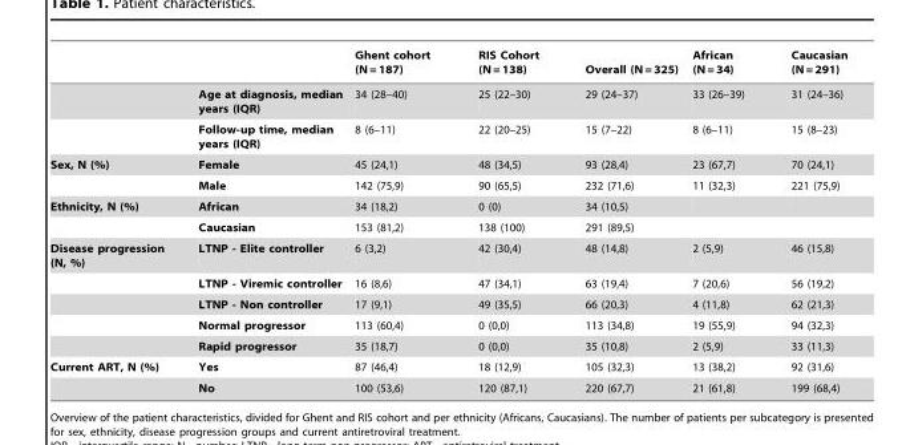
<table><thead><tr><td></td><td></td><td>Ghent cohort (N = 187)</td><td>RIS Cohort (N = 138)</td><td>Overall (N = 325)</td><td>African (N = 34)</td><td>Caucasian (N = 291)</td></tr></thead><tbody><tr><td></td><td>Age at diagnosis, median years (IQR)</td><td>34 (28–40)</td><td>25 (22–30)</td><td>29 (24–37)</td><td>33 (26–39)</td><td>31 (24–36)</td></tr><tr><td></td><td>Follow-up time, median years (IQR)</td><td>8 (6–11)</td><td>22 (20–25)</td><td>15 (7–22)</td><td>8 (6–11)</td><td>15 (8–23)</td></tr><tr><td rowspan="2">Sex, N (%)</td><td>Female</td><td>45 (24,1)</td><td>48 (34,5)</td><td>93 (28,4)</td><td>23 (67,7)</td><td>70 (24,1)</td></tr><tr><td>Male</td><td>142 (75,9)</td><td>90 (65,5)</td><td>232 (71,6)</td><td>11 (32,3)</td><td>221 (75,9)</td></tr><tr><td rowspan="2">Ethnicity, N (%)</td><td>African</td><td>34 (18,2)</td><td>0 (0)</td><td>34 (10,5)</td><td></td><td></td></tr><tr><td>Caucasian</td><td>153 (81,2)</td><td>138 (100)</td><td>291 (89,5)</td><td></td><td></td></tr><tr><td rowspan="5">Disease progression (N, %)</td><td>LTNP - Elite controller</td><td>6 (3,2)</td><td>42 (30,4)</td><td>48 (14,8)</td><td>2 (5,9)</td><td>46 (15,8)</td></tr><tr><td>LTNP - Viremic controller</td><td>16 (8,6)</td><td>47 (34,1)</td><td>63 (19,4)</td><td>7 (20,6)</td><td>56 (19,2)</td></tr><tr><td>LTNP - Non controller</td><td>17 (9,1)</td><td>49 (35,5)</td><td>66 (20,3)</td><td>4 (11,8)</td><td>62 (21,3)</td></tr><tr><td>Normal progressor</td><td>113 (60,4)</td><td>0 (0,0)</td><td>113 (34,8)</td><td>19 (55,9)</td><td>94 (32,3)</td></tr><tr><td>Rapid progressor</td><td>35 (18,7)</td><td>0 (0,0)</td><td>35 (10,8)</td><td>2 (5,9)</td><td>33 (11,3)</td></tr><tr><td rowspan="2">Current ART, N (%)</td><td>Yes</td><td>87 (46,4)</td><td>18 (12,9)</td><td>105 (32,3)</td><td>13 (38,2)</td><td>92 (31,6)</td></tr><tr><td>No</td><td>100 (53,6)</td><td>120 (87,1)</td><td>220 (67,7)</td><td>21 (61,8)</td><td>199 (68,4)</td></tr></tbody></table>